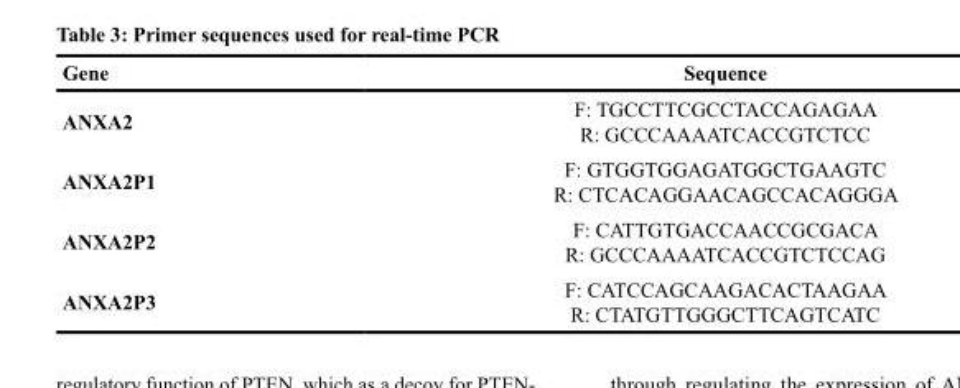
<table><thead><tr><td>Gene</td><td>Sequence</td></tr></thead><tbody><tr><td>ANXA2</td><td>F: TGCCTTCGCCTACCAGAGAA R: GCCCAAAATCACCGTCTCC</td></tr><tr><td>ANXA2P1</td><td>F: GTGGTGGAGATGGCTGAAGTC R: CTCACAGGAACAGCCACAGGGA</td></tr><tr><td>ANXA2P2</td><td>F: CATTGTGACCAACCGCGACA R: GCCCAAAATCACCGTCTCCAG</td></tr><tr><td>ANXA2P3</td><td>F: CATCCAGCAAGACACTAAGAA R: CTATGTTGGGCTTCAGTCATC</td></tr></tbody></table>